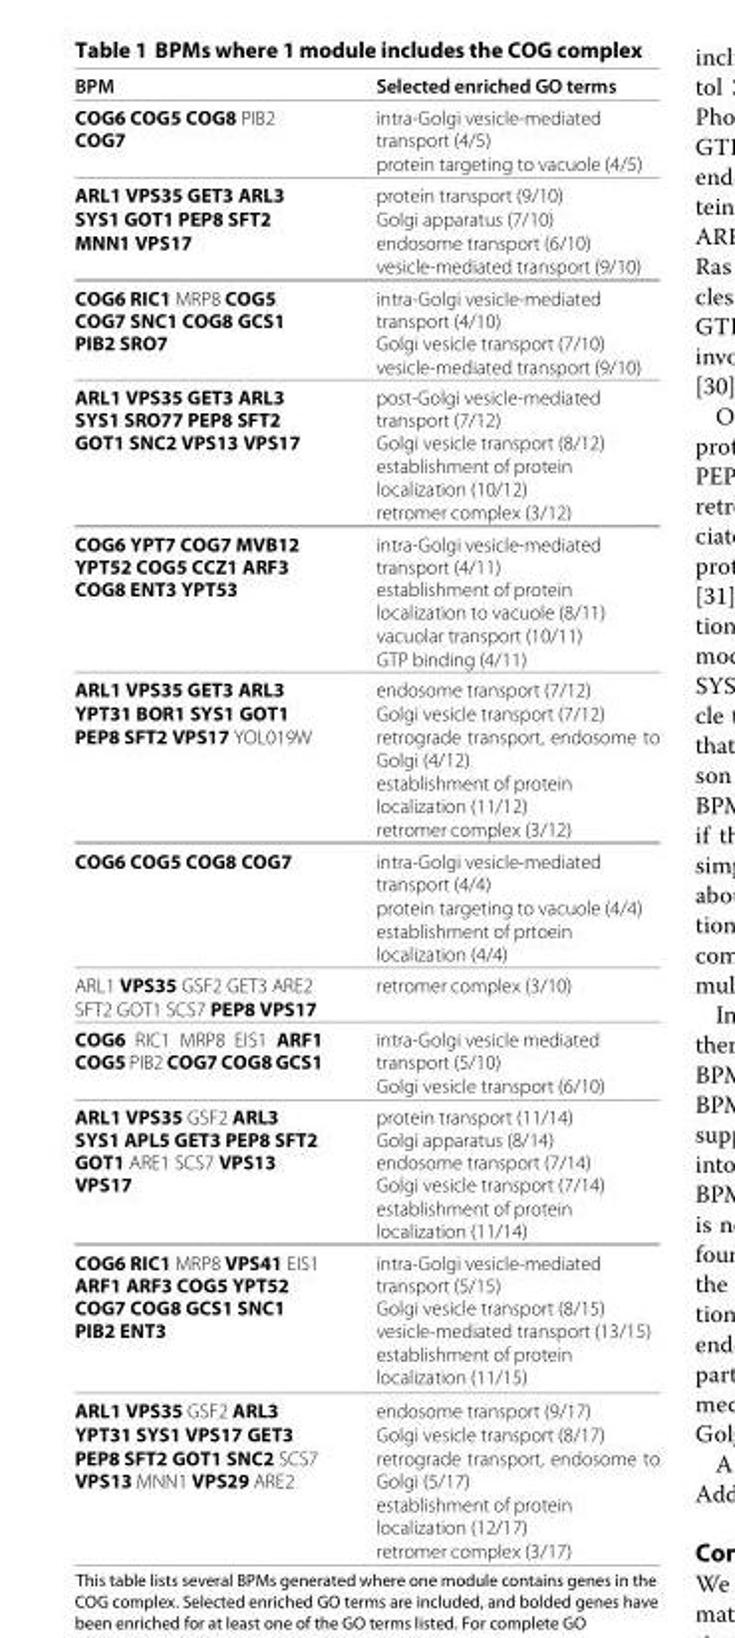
<table><thead><tr><td>BPM</td><td>Selected enriched GO terms</td></tr></thead><tbody><tr><td rowspan="2">COG6 COG5 COG8 PIB2 COG7</td><td>intra-Golgi vesicle-mediated transport (4/5)</td></tr><tr><td>protein targeting to vacuole (4/5)</td></tr><tr><td>ARL1 VPS35 GET3 ARL3</td><td>protein transport (9/10)</td></tr><tr><td>SYS1 GOT1 PEP8 SFT2</td><td>Golgi apparatus (7/10)</td></tr><tr><td rowspan="2">MNN1 VPS17</td><td>endosome transport (6/10)</td></tr><tr><td>vesicle-mediated transport (9/10)</td></tr><tr><td rowspan="2">COG6 RIC1 MRP8 COG5 COG7 SNC1 COG8 GCS1 PIB2 SRO7</td><td>intra-Golgi vesicle-mediated transport (4/10) Golgi vesicle transport (7/10)</td></tr><tr><td>vesicle-mediated transport (9/10)</td></tr><tr><td rowspan="3">ARL1 VPS35 GET3 ARL3 SYS1 SRO77 PEP8 SFT2 GOT1 SNC2 VPS13 VPS17</td><td>post-Golgi vesicle-mediated transport (7/12) Golgi vesicle transport (8/12)</td></tr><tr><td>establishment of protein localization (10/12)</td></tr><tr><td>retromer complex (3/12)</td></tr><tr><td rowspan="3">COG6 YPT7 COG7 MVB12 YPT52 COG5 CCZ1 ARF3 COG8 ENT3 YPT53</td><td>intra-Golgi vesicle-mediated transport (4/11) establishment of protein localization to vacuole (8/11)</td></tr><tr><td>vacuolar transport (10/11)</td></tr><tr><td>GTP binding (4/11)</td></tr><tr><td>ARL1 VPS35 GET3 ARL3</td><td>endosome transport (7/12)</td></tr><tr><td>YPT31 BOR1 SYS1 GOT1</td><td>Golgi vesicle transport (7/12)</td></tr><tr><td rowspan="3">PEP8 SFT2 VPS17 YOL019W</td><td>retrograde transport, endosome to Golgi (4/12)</td></tr><tr><td>establishment of protein localization (11/12)</td></tr><tr><td>retromer complex (3/12)</td></tr><tr><td rowspan="3">COG6 COG5 COG8 COG7</td><td>intra-Golgi vesicle-mediated transport (4/4)</td></tr><tr><td>protein targeting to vacuole (4/4)</td></tr><tr><td>establishment of prtoein localization (4/4)</td></tr><tr><td>ARL1 VPS35 GSF2 GET3 ARE2</td><td>retromer complex (3/10)</td></tr><tr><td colspan="2">SFT2 GOT1 SCS7 PEP8 VPS17</td></tr><tr><td rowspan="2">COG6 RIC1 MRP8 EIS1 ARF1 COG5 PIB2 COG7 COG8 GCS1</td><td>intra-Golgi vesicle mediated transport (5/10)</td></tr><tr><td>Golgi vesicle transport (6/10)</td></tr><tr><td rowspan="2">ARL1 VPS35 GSF2 ARL3 SYS1 APL5 GET3 PEP8 SFT2 GOT1 ARE1 SCS7 VPS13 VPS17</td><td>protein transport (11/14) Golgi apparatus (8/14) endosome transport (7/14) Golgi vesicle transport (7/14)</td></tr><tr><td>establishment of protein localization (11/14)</td></tr><tr><td rowspan="2">COG6 RIC1 MRP8 VPS41 EIS1 ARF1 ARF3 COG5 YPT52 COG7 COG8 GCS1 SNC1 PIB2 ENT3</td><td>intra-Golgi vesicle-mediated transport (5/15) Golgi vesicle transport (8/15) vesicle-mediated transport (13/15)</td></tr><tr><td>establishment of protein localization (11/15)</td></tr><tr><td>ARL1 VPS35 GSF2 ARL3</td><td>endosome transport (9/17)</td></tr><tr><td>YPT31 SYS1 VPS17 GET3</td><td>Golgi vesicle transport (8/17)</td></tr><tr><td rowspan="3">PEP8 SFT2 GOT1 SNC2 SCS7 VPS13 MNN1 VPS29 ARE2</td><td>retrograde transport, endosome to Golgi (5/17)</td></tr><tr><td>establishment of protein localization (12/17)</td></tr><tr><td>retromer complex (3/17)</td></tr></tbody></table>